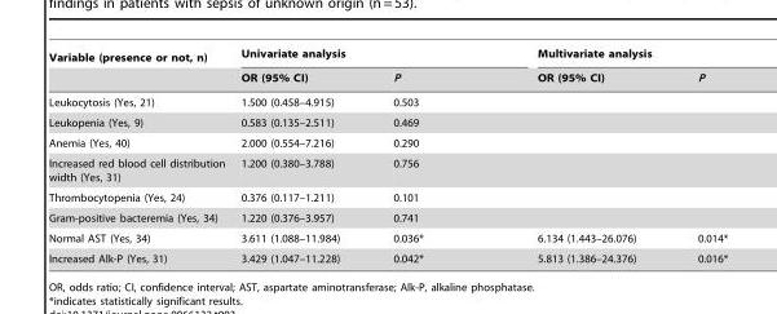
<table><thead><tr><td rowspan="2">Variable (presence or not, n)</td><td colspan="2">Univariate analysis</td><td colspan="2">Multivariate analysis</td></tr><tr><td>OR (95% CI)</td><td>P</td><td>OR (95% CI)</td><td>P</td></tr></thead><tbody><tr><td>Leukocytosis (Yes, 21)</td><td>1.500 (0.458–4.915)</td><td>0.503</td><td></td><td></td></tr><tr><td>Leukopenia (Yes, 9)</td><td>0.583 (0.135–2.511)</td><td>0.469</td><td></td><td></td></tr><tr><td>Anemia (Yes, 40)</td><td>2.000 (0.554–7.216)</td><td>0.290</td><td></td><td></td></tr><tr><td>Increased red blood cell distribution width (Yes, 31)</td><td>1.200 (0.380–3.788)</td><td>0.756</td><td></td><td></td></tr><tr><td>Thrombocytopenia (Yes, 24)</td><td>0.376 (0.117–1.211)</td><td>0.101</td><td></td><td></td></tr><tr><td>Gram-positive bacteremia (Yes, 34)</td><td>1.220 (0.376–3.957)</td><td>0.741</td><td></td><td></td></tr><tr><td>Normal AST (Yes, 34)</td><td>3.611 (1.088–11.984)</td><td>0.036*</td><td>6.134 (1.443–26.076)</td><td>0.014*</td></tr><tr><td>Increased Alk-P (Yes, 31)</td><td>3.429 (1.047–11.228)</td><td>0.042*</td><td>5.813 (1.386–24.376)</td><td>0.016*</td></tr></tbody></table>